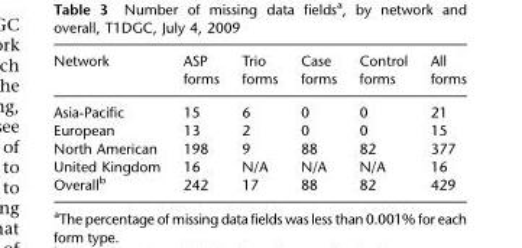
<table><thead><tr><td>Network</td><td>ASP forms</td><td>Trio forms</td><td>Case forms</td><td>Control forms</td><td>All forms</td></tr></thead><tbody><tr><td>Asia-Pacific</td><td>15</td><td>6</td><td>0</td><td>0</td><td>21</td></tr><tr><td>European</td><td>13</td><td>2</td><td>0</td><td>0</td><td>15</td></tr><tr><td>North American</td><td>198</td><td>9</td><td>88</td><td>82</td><td>377</td></tr><tr><td>United Kingdom</td><td>16</td><td>N/A</td><td>N/A</td><td>N/A</td><td>16</td></tr><tr><td>Overall<sup>b</sup></td><td>242</td><td>17</td><td>88</td><td>82</td><td>429</td></tr></tbody></table>